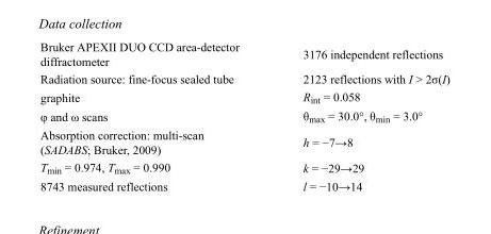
<table><tbody><tr><td>Bruker APEXII DUO CCD area-detector diffractometer</td><td>3176 independent reflections</td></tr><tr><td>Radiation source: fine-focus sealed tube</td><td>2123 reflections with I &gt; 2σ(I)</td></tr><tr><td>graphite</td><td>R<sub>int</sub> = 0.058</td></tr><tr><td>φ and ω scans</td><td>θ<sub>max</sub> = 30.0°, θ<sub>min</sub> = 3.0°</td></tr><tr><td>Absorption correction: multi-scan (SADABS; Bruker, 2009)</td><td>h = −7→8</td></tr><tr><td>T<sub>min</sub> = 0.974, T<sub>max</sub> = 0.990</td><td>k = −29→29</td></tr><tr><td>8743 measured reflections</td><td>l = −10→14</td></tr></tbody></table>